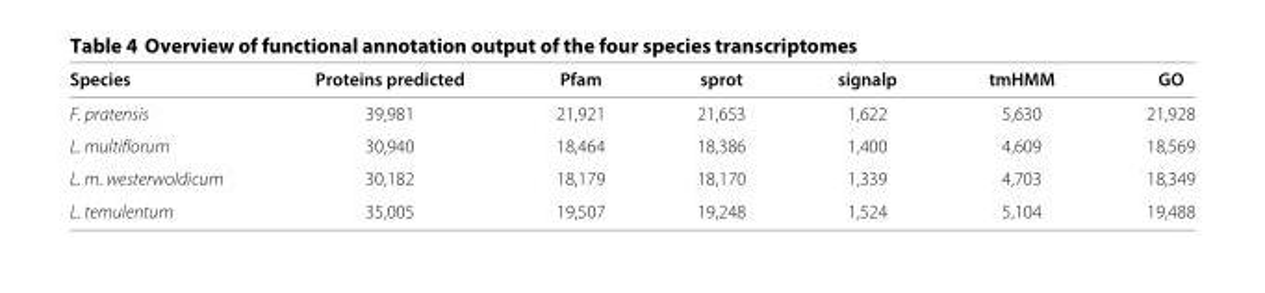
<table><thead><tr><td>Species</td><td>Proteins predicted</td><td>Pfam</td><td>sprot</td><td>signalp</td><td>tmHMM</td><td>GO</td></tr></thead><tbody><tr><td>F. pratensis</td><td>39,981</td><td>21,921</td><td>21,653</td><td>1,622</td><td>5,630</td><td>21,928</td></tr><tr><td>L. multiflorum</td><td>30,940</td><td>18,464</td><td>18,386</td><td>1,400</td><td>4,609</td><td>18,569</td></tr><tr><td>L. m. westerwoldicum</td><td>30,182</td><td>18,179</td><td>18,170</td><td>1,339</td><td>4,703</td><td>18,349</td></tr><tr><td>L. temulentum</td><td>35,005</td><td>19,507</td><td>19,248</td><td>1,524</td><td>5,104</td><td>19,488</td></tr></tbody></table>